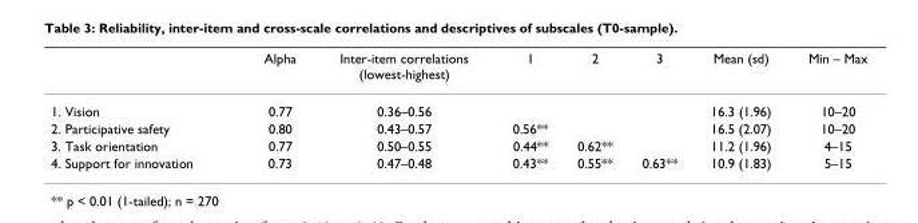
<table><thead><tr><td></td><td>Alpha</td><td>Inter-item correlations (lowest-highest)</td><td>1</td><td>2</td><td>3</td><td>Mean (sd)</td><td>Min – Max</td></tr></thead><tbody><tr><td>1. Vision</td><td>0.77</td><td>0.36–0.56</td><td></td><td></td><td></td><td>16.3 (1.96)</td><td>10–20</td></tr><tr><td>2. Participative safety</td><td>0.80</td><td>0.43–0.57</td><td>0.56**</td><td></td><td></td><td>16.5 (2.07)</td><td>10–20</td></tr><tr><td>3. Task orientation</td><td>0.77</td><td>0.50–0.55</td><td>0.44**</td><td>0.62**</td><td></td><td>11.2 (1.96)</td><td>4–15</td></tr><tr><td>4. Support for innovation</td><td>0.73</td><td>0.47–0.48</td><td>0.43**</td><td>0.55**</td><td>0.63**</td><td>10.9 (1.83)</td><td>5–15</td></tr></tbody></table>